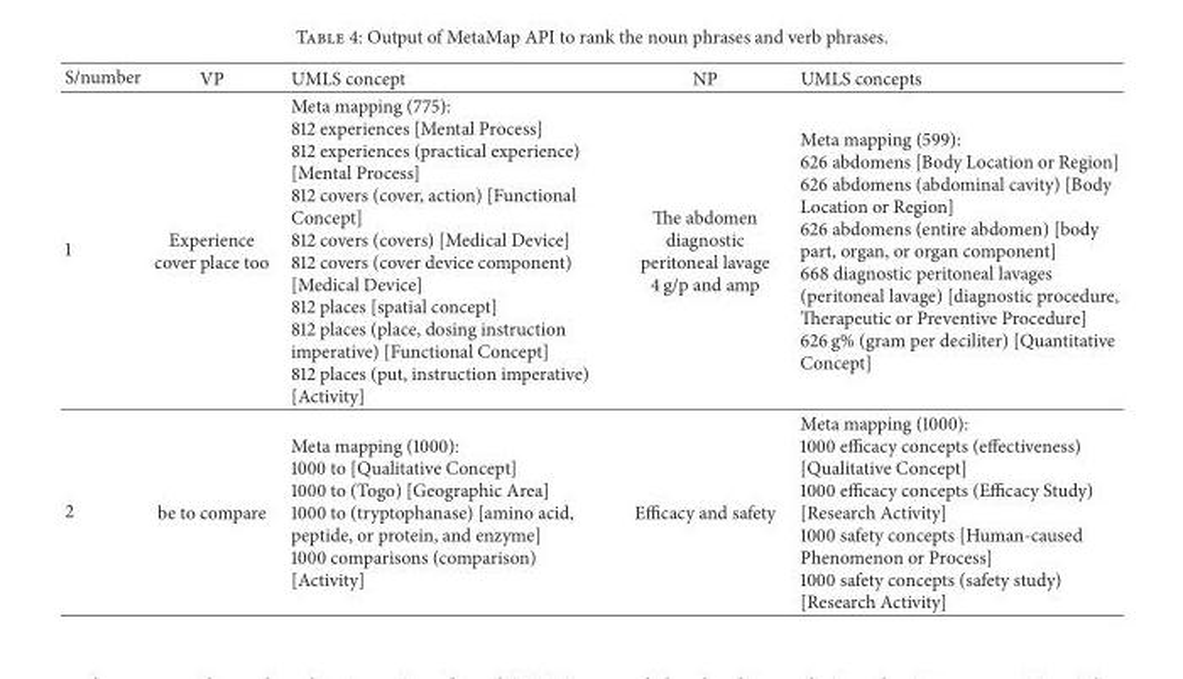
<table><thead><tr><td>S/number</td><td>VP</td><td>UMLS concept</td><td>NP</td><td>UMLS concepts</td></tr></thead><tbody><tr><td>1</td><td>Experience cover place too</td><td>Meta mapping (775): 812 experiences [Mental Process] 812 experiences (practical experience) [Mental Process] 812 covers (cover, action) [Functional Concept] 812 covers (covers) [Medical Device] 812 covers (cover device component) [Medical Device] 812 places [spatial concept] 812 places (place, dosing instruction imperative) [Functional Concept] 812 places (put, instruction imperative) [Activity]</td><td>The abdomen diagnostic peritoneal lavage 4 g/p and amp</td><td>Meta mapping (599): 626 abdomens [Body Location or Region] 626 abdomens (abdominal cavity) [Body Location or Region] 626 abdomens (entire abdomen) [body part, organ, or organ component] 668 diagnostic peritoneal lavages (peritoneal lavage) [diagnostic procedure, Therapeutic or Preventive Procedure] 626 g% (gram per deciliter) [Quantitative Concept]</td></tr><tr><td>2</td><td>be to compare</td><td>Meta mapping (1000): 1000 to [Qualitative Concept] 1000 to (Togo) [Geographic Area] 1000 to (tryptophanase) [amino acid, peptide, or protein, and enzyme] 1000 comparisons (comparison) [Activity]</td><td>Efficacy and safety</td><td>Meta mapping (1000): 1000 efficacy concepts (effectiveness) [Qualitative Concept] 1000 efficacy concepts (Efficacy Study) [Research Activity] 1000 safety concepts [Human-caused Phenomenon or Process] 1000 safety concepts (safety study) [Research Activity]</td></tr></tbody></table>